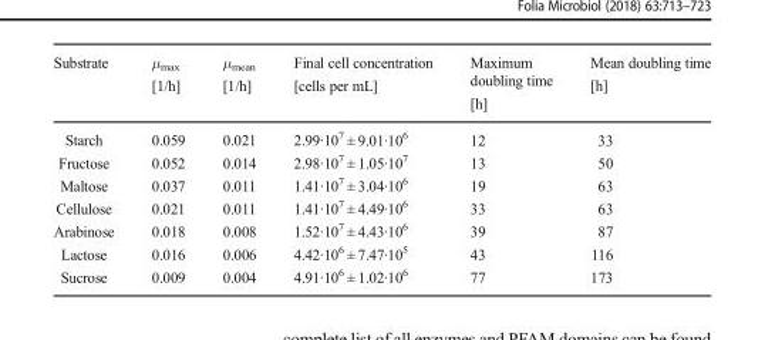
<table><thead><tr><td>Substrate</td><td>μ<sub>max</sub> [1/h]</td><td>μ<sub>mean</sub> [1/h]</td><td>Final cell concentration [cells per mL]</td><td>Maximum doubling time [h]</td><td>Mean doubling time [h]</td></tr></thead><tbody><tr><td>Starch</td><td>0.059</td><td>0.021</td><td>2.99·10<sup>7</sup> ± 9.01·10<sup>6</sup></td><td>12</td><td>33</td></tr><tr><td>Fructose</td><td>0.052</td><td>0.014</td><td>2.98·10<sup>7</sup> ± 1.05·10<sup>7</sup></td><td>13</td><td>50</td></tr><tr><td>Maltose</td><td>0.037</td><td>0.011</td><td>1.41·10<sup>7</sup> ± 3.04·10<sup>6</sup></td><td>19</td><td>63</td></tr><tr><td>Cellulose</td><td>0.021</td><td>0.011</td><td>1.41·10<sup>7</sup> ± 4.49·10<sup>6</sup></td><td>33</td><td>63</td></tr><tr><td>Arabinose</td><td>0.018</td><td>0.008</td><td>1.52·10<sup>7</sup> ± 4.43·10<sup>6</sup></td><td>39</td><td>87</td></tr><tr><td>Lactose</td><td>0.016</td><td>0.006</td><td>4.42·10<sup>6</sup> ± 7.47·10<sup>5</sup></td><td>43</td><td>116</td></tr><tr><td>Sucrose</td><td>0.009</td><td>0.004</td><td>4.91·10<sup>6</sup> ± 1.02·10<sup>6</sup></td><td>77</td><td>173</td></tr></tbody></table>